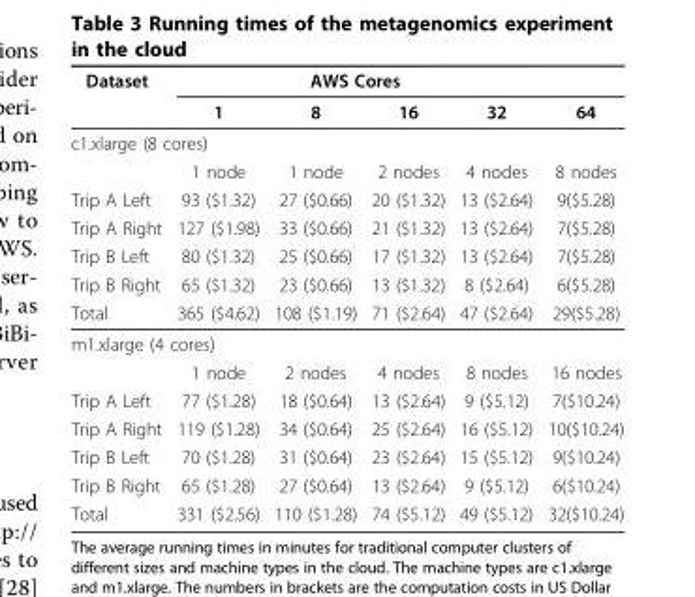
<table><thead><tr><td rowspan="2">Dataset</td><td colspan="4">AWS Cores</td><td rowspan="2">64</td></tr><tr><td>1</td><td>8</td><td>16</td><td>32</td></tr></thead><tbody><tr><td colspan="6">c1.xlarge (8 cores)</td></tr><tr><td></td><td>1 node</td><td>1 node</td><td>2 nodes</td><td>4 nodes</td><td>8 nodes</td></tr><tr><td>Trip A Left</td><td>93 ($1.32)</td><td>27 ($0.66)</td><td>20 ($1.32)</td><td>13 ($2.64)</td><td>9($5.28)</td></tr><tr><td>Trip A Right</td><td>127 ($1.98)</td><td>33 ($0.66)</td><td>21 ($1.32)</td><td>13 ($2.64)</td><td>7($5.28)</td></tr><tr><td>Trip B Left</td><td>80 ($1.32)</td><td>25 ($0.66)</td><td>17 ($1.32)</td><td>13 ($2.64)</td><td>7($5.28)</td></tr><tr><td>Trip B Right</td><td>65 ($1.32)</td><td>23 ($0.66)</td><td>13 ($1.32)</td><td>8 ($2.64)</td><td>6($5.28)</td></tr><tr><td>Total</td><td>365 ($4.62)</td><td>108 ($1.19)</td><td>71 ($2.64)</td><td>47 ($2.64)</td><td>29($5.28)</td></tr><tr><td colspan="6">m1.xlarge (4 cores)</td></tr><tr><td></td><td>1 node</td><td>2 nodes</td><td>4 nodes</td><td>8 nodes</td><td>16 nodes</td></tr><tr><td>Trip A Left</td><td>77 ($1.28)</td><td>18 ($0.64)</td><td>13 ($2.64)</td><td>9 ($5.12)</td><td>7($10.24)</td></tr><tr><td>Trip A Right</td><td>119 ($1.28)</td><td>34 ($0.64)</td><td>25 ($2.64)</td><td>16 ($5.12)</td><td>10($10.24)</td></tr><tr><td>Trip B Left</td><td>70 ($1.28)</td><td>31 ($0.64)</td><td>23 ($2.64)</td><td>15 ($5.12)</td><td>9($10.24)</td></tr><tr><td>Trip B Right</td><td>65 ($1.28)</td><td>27 ($0.64)</td><td>13 ($2.64)</td><td>9 ($5.12)</td><td>6($10.24)</td></tr><tr><td>Total</td><td>331 ($2.56)</td><td>110 ($1.28)</td><td>74 ($5.12)</td><td>49 ($5.12)</td><td>32($10.24)</td></tr></tbody></table>